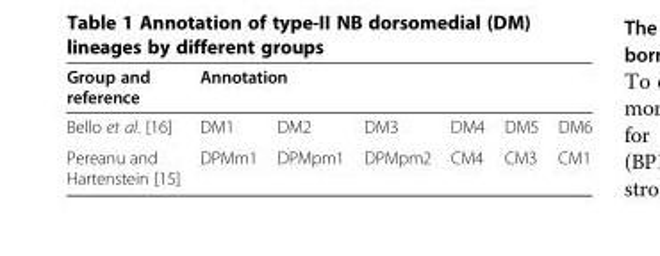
<table><thead><tr><td rowspan="2">Group and reference Bello et al. [16]</td><td colspan="6">Annotation</td></tr><tr><td>DM1</td><td>DM2</td><td>DM3</td><td>DM4</td><td>DM5</td><td>DM6</td></tr></thead><tbody><tr><td>Pereanu and Hartenstein [15]</td><td>DPMm1</td><td>DPMpm1</td><td>DPMpm2</td><td>CM4</td><td>CM3</td><td>CM1</td></tr></tbody></table>